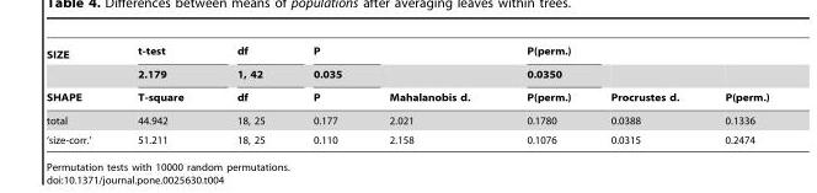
<table><thead><tr><td rowspan="3">SIZE SHAPE</td><td rowspan="3">t-test 2.179 T-square</td><td rowspan="3">df 1, 42 df</td><td rowspan="3">P 0.035 P</td><td rowspan="3">Mahalanobis d.</td><td rowspan="3">P(perm.) 0.0350 P(perm.)</td><td rowspan="3">Procrustes d.</td><td rowspan="3">P(perm.)</td></tr><tr></tr><tr></tr></thead><tbody><tr><td>total</td><td>44.942</td><td>18, 25</td><td>0.177</td><td>2.021</td><td>0.1780</td><td>0.0388</td><td>0.1336</td></tr><tr><td>‘size-corr.’</td><td>51.211</td><td>18, 25</td><td>0.110</td><td>2.158</td><td>0.1076</td><td>0.0315</td><td>0.2474</td></tr></tbody></table>